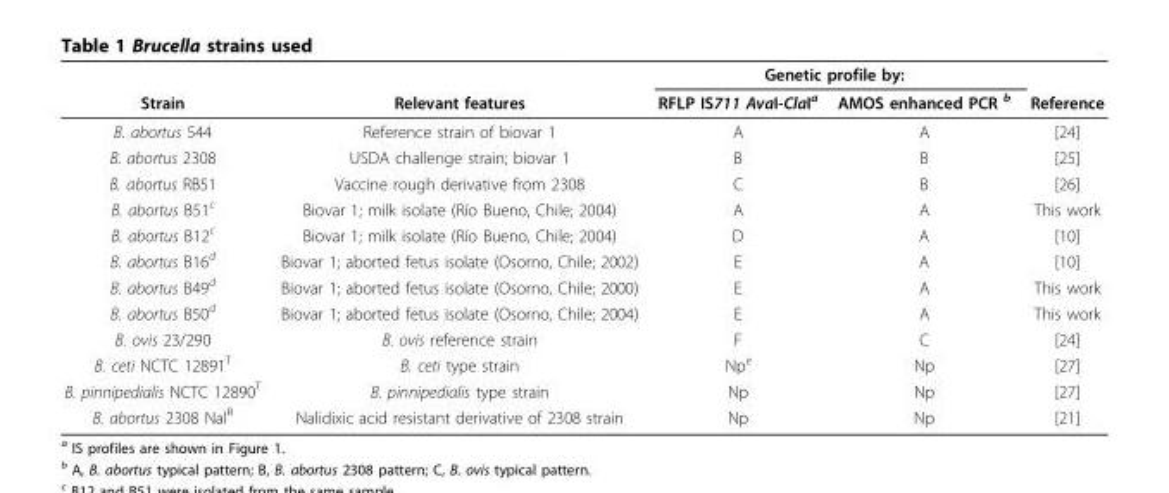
<table><thead><tr><td rowspan="2">Strain</td><td rowspan="2">Relevant features</td><td colspan="2">Genetic profile by:</td><td rowspan="2">Reference</td></tr><tr><td>RFLP IS711 AvaI-ClaI<sup>a</sup></td><td>AMOS enhanced PCR <sup>b</sup></td></tr></thead><tbody><tr><td>B. abortus 544</td><td>Reference strain of biovar 1</td><td>A</td><td>A</td><td>[24]</td></tr><tr><td>B. abortus 2308</td><td>USDA challenge strain; biovar 1</td><td>B</td><td>B</td><td>[25]</td></tr><tr><td>B. abortus RB51</td><td>Vaccine rough derivative from 2308</td><td>C</td><td>B</td><td>[26]</td></tr><tr><td>B. abortus B51<sup>c</sup></td><td>Biovar 1; milk isolate (Río Bueno, Chile; 2004)</td><td>A</td><td>A</td><td>This work</td></tr><tr><td>B. abortus B12<sup>c</sup></td><td>Biovar 1; milk isolate (Río Bueno, Chile; 2004)</td><td>D</td><td>A</td><td>[10]</td></tr><tr><td>B. abortus B16<sup>d</sup></td><td>Biovar 1; aborted fetus isolate (Osorno, Chile; 2002)</td><td>E</td><td>A</td><td>[10]</td></tr><tr><td>B. abortus B49<sup>d</sup></td><td>Biovar 1; aborted fetus isolate (Osorno, Chile; 2000)</td><td>E</td><td>A</td><td>This work</td></tr><tr><td>B. abortus B50<sup>d</sup></td><td>Biovar 1; aborted fetus isolate (Osorno, Chile; 2004)</td><td>E</td><td>A</td><td>This work</td></tr><tr><td>B. ovis 23/290</td><td>B. ovis reference strain</td><td>F</td><td>C</td><td>[24]</td></tr><tr><td>B. ceti NCTC 12891<sup>T</sup></td><td>B. ceti type strain</td><td>Np<sup>e</sup></td><td>Np</td><td>[27]</td></tr><tr><td>B. pinnipedialis NCTC 12890<sup>T</sup></td><td>B. pinnipedialis type strain</td><td>Np</td><td>Np</td><td>[27]</td></tr><tr><td>B. abortus 2308 Nal<sup>R</sup></td><td>Nalidixic acid resistant derivative of 2308 strain</td><td>Np</td><td>Np</td><td>[21]</td></tr></tbody></table>